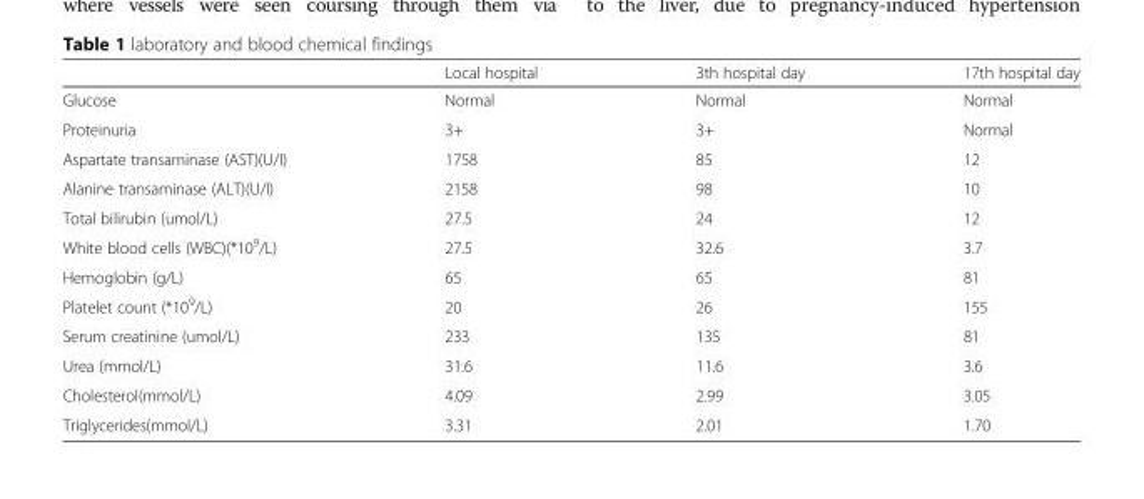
<table><thead><tr><td></td><td>Local hospital</td><td>3th hospital day</td><td>17th hospital day</td></tr></thead><tbody><tr><td>Glucose</td><td>Normal</td><td>Normal</td><td>Normal</td></tr><tr><td>Proteinuria</td><td>3+</td><td>3+</td><td>Normal</td></tr><tr><td>Aspartate transaminase (AST)(U/I)</td><td>1758</td><td>85</td><td>12</td></tr><tr><td>Alanine transaminase (ALT)(U/I)</td><td>2158</td><td>98</td><td>10</td></tr><tr><td>Total bilirubin (umol/L)</td><td>27.5</td><td>24</td><td>12</td></tr><tr><td>White blood cells (WBC)(*10<sup>9</sup>/L)</td><td>27.5</td><td>32.6</td><td>3.7</td></tr><tr><td>Hemoglobin (g/L)</td><td>65</td><td>65</td><td>81</td></tr><tr><td>Platelet count (*10<sup>9</sup>/L)</td><td>20</td><td>26</td><td>155</td></tr><tr><td>Serum creatinine (umol/L)</td><td>233</td><td>135</td><td>81</td></tr><tr><td>Urea (mmol/L)</td><td>31.6</td><td>11.6</td><td>3.6</td></tr><tr><td>Cholesterol(mmol/L)</td><td>4.09</td><td>2.99</td><td>3.05</td></tr><tr><td>Triglycerides(mmol/L)</td><td>3.31</td><td>2.01</td><td>1.70</td></tr></tbody></table>